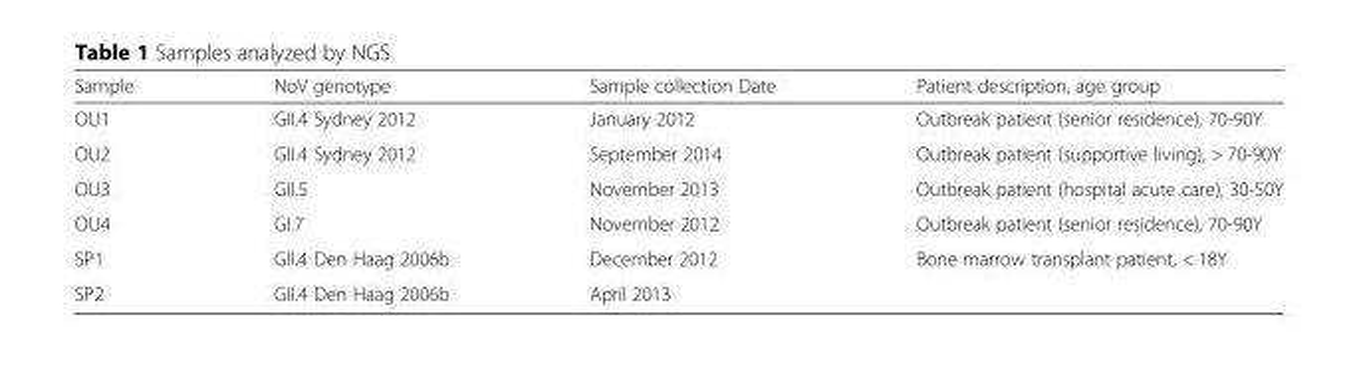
<table><thead><tr><td>Sample</td><td>NoV genotype</td><td>Sample collection Date</td><td>Patient description, age group</td></tr></thead><tbody><tr><td>OU1</td><td>GII.4 Sydney 2012</td><td>January 2012</td><td>Outbreak patient (senior residence), 70-90Y</td></tr><tr><td>OU2</td><td>GII.4 Sydney 2012</td><td>September 2014</td><td>Outbreak patient (supportive living), &gt; 70-90Y</td></tr><tr><td>OU3</td><td>GII.5</td><td>November 2013</td><td>Outbreak patient (hospital acute care), 30-50Y</td></tr><tr><td>OU4</td><td>GI.7</td><td>November 2012</td><td>Outbreak patient (senior residence), 70-90Y</td></tr><tr><td>SP1</td><td>GII.4 Den Haag 2006b</td><td>December 2012</td><td rowspan="2">Bone marrow transplant patient, &lt; 18Y</td></tr><tr><td>SP2</td><td>GII.4 Den Haag 2006b</td><td>April 2013</td></tr></tbody></table>